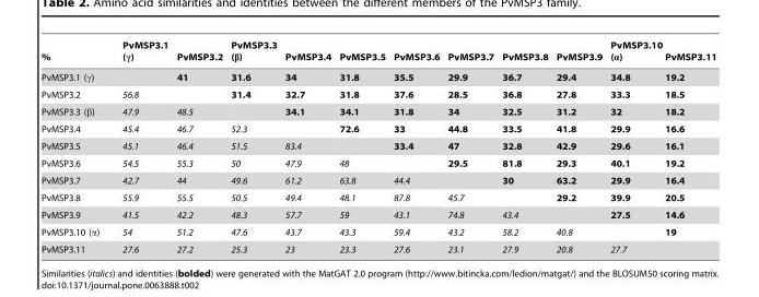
<table><thead><tr><td>%</td><td>PvMSP3.1 (γ)</td><td>PvMSP3.2</td><td>PvMSP3.3 (β)</td><td>PvMSP3.4</td><td>PvMSP3.5</td><td>PvMSP3.6</td><td>PvMSP3.7</td><td>PvMSP3.8</td><td>PvMSP3.9</td><td>PvMSP3.10 (α)</td><td>PvMSP3.11</td></tr></thead><tbody><tr><td>PvMSP3.1 (γ)</td><td></td><td>41</td><td>31.6</td><td>34</td><td>31.8</td><td>35.5</td><td>29.9</td><td>36.7</td><td>29.4</td><td>34.8</td><td>19.2</td></tr><tr><td>PvMSP3.2</td><td>56.8</td><td></td><td>31.4</td><td>32.7</td><td>31.8</td><td>37.6</td><td>28.5</td><td>36.8</td><td>27.8</td><td>33.3</td><td>18.5</td></tr><tr><td>PvMSP3.3 (β)</td><td>47.9</td><td>48.5</td><td></td><td>34.1</td><td>34.1</td><td>31.8</td><td>34</td><td>32.5</td><td>31.2</td><td>32</td><td>18.2</td></tr><tr><td>PvMSP3.4</td><td>45.4</td><td>46.7</td><td>52.3</td><td></td><td>72.6</td><td>33</td><td>44.8</td><td>33.5</td><td>41.8</td><td>29.9</td><td>16.6</td></tr><tr><td>PvMSP3.5</td><td>45.1</td><td>46.4</td><td>51.5</td><td>83.4</td><td></td><td>33.4</td><td>47</td><td>32.8</td><td>42.9</td><td>29.6</td><td>16.1</td></tr><tr><td>PvMSP3.6</td><td>54.5</td><td>55.3</td><td>50</td><td>47.9</td><td>48</td><td></td><td>29.5</td><td>81.8</td><td>29.3</td><td>40.1</td><td>19.2</td></tr><tr><td>PvMSP3.7</td><td>42.7</td><td>44</td><td>49.6</td><td>61.2</td><td>63.8</td><td>44.4</td><td></td><td>30</td><td>63.2</td><td>29.9</td><td>16.4</td></tr><tr><td>PvMSP3.8</td><td>55.9</td><td>55.5</td><td>50.5</td><td>49.4</td><td>48.1</td><td>87.8</td><td>45.7</td><td></td><td>29.2</td><td>39.9</td><td>20.5</td></tr><tr><td>PvMSP3.9</td><td>41.5</td><td>42.2</td><td>48.3</td><td>57.7</td><td>59</td><td>43.1</td><td>74.8</td><td>43.4</td><td></td><td>27.5</td><td>14.6</td></tr><tr><td>PvMSP3.10 (α)</td><td>54</td><td>51.2</td><td>47.6</td><td>43.7</td><td>43.3</td><td>59.4</td><td>43.2</td><td>58.2</td><td>40.8</td><td></td><td>19</td></tr><tr><td>PvMSP3.11</td><td>27.6</td><td>27.2</td><td>25.3</td><td>23</td><td>23.3</td><td>27.6</td><td>23.1</td><td>27.9</td><td>20.8</td><td>27.7</td><td></td></tr></tbody></table>